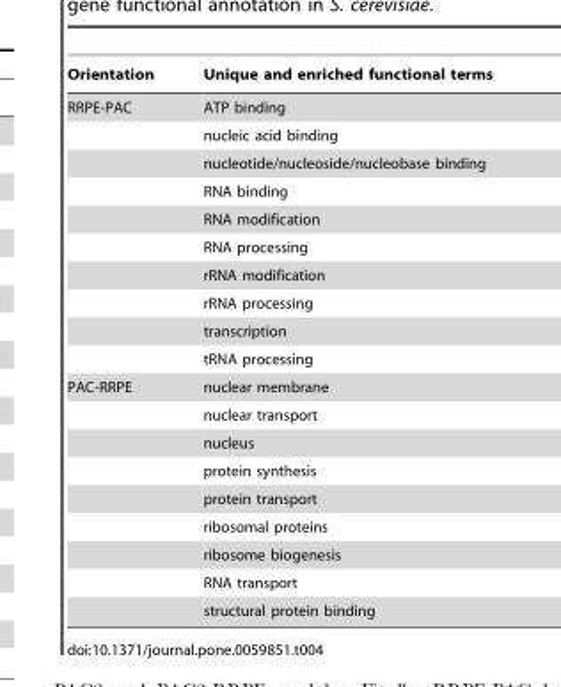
<table><thead><tr><td>Orientation</td><td>Unique and enriched functional terms</td></tr></thead><tbody><tr><td rowspan="10">RRPE-PAC</td><td>ATP binding</td></tr><tr><td>nucleic acid binding</td></tr><tr><td>nucleotide/nucleoside/nucleobase binding</td></tr><tr><td>RNA binding</td></tr><tr><td>RNA modification</td></tr><tr><td>RNA processing</td></tr><tr><td>rRNA modification</td></tr><tr><td>rRNA processing</td></tr><tr><td>transcription</td></tr><tr><td>tRNA processing</td></tr><tr><td rowspan="9">PAC-RRPE</td><td>nuclear membrane</td></tr><tr><td>nuclear transport</td></tr><tr><td>nucleus</td></tr><tr><td>protein synthesis</td></tr><tr><td>protein transport</td></tr><tr><td>ribosomal proteins</td></tr><tr><td>ribosome biogenesis</td></tr><tr><td>RNA transport</td></tr><tr><td>structural protein binding</td></tr></tbody></table>